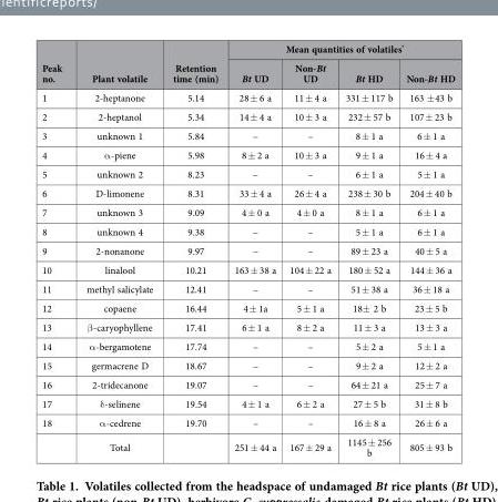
<table><thead><tr><td rowspan="2">Peak no.</td><td rowspan="2">Plant volatile</td><td rowspan="2">Retention time (min)</td><td colspan="4">Mean quantities of volatiles*</td></tr><tr><td>Bt UD</td><td>Non-Bt UD</td><td>Bt HD</td><td>Non-Bt HD</td></tr></thead><tbody><tr><td>1</td><td>2-heptanone</td><td>5.14</td><td>28 ± 6 a</td><td>11 ± 4 a</td><td>331 ± 117 b</td><td>163 ± 43 b</td></tr><tr><td>2</td><td>2-heptanol</td><td>5.34</td><td>14 ± 4 a</td><td>10 ± 3 a</td><td>232 ± 57 b</td><td>107 ± 23 b</td></tr><tr><td>3</td><td>unknown 1</td><td>5.84</td><td>–</td><td>–</td><td>8 ± 1 a</td><td>6 ± 1 a</td></tr><tr><td>4</td><td>α -piene</td><td>5.98</td><td>8 ± 2 a</td><td>10 ± 3 a</td><td>9 ± 1 a</td><td>16 ± 4 a</td></tr><tr><td>5</td><td>unknown 2</td><td>8.23</td><td>–</td><td>–</td><td>6 ± 1 a</td><td>5 ± 1 a</td></tr><tr><td>6</td><td>D-limonene</td><td>8.31</td><td>33 ± 4 a</td><td>26 ± 4 a</td><td>238 ± 30 b</td><td>204 ± 40 b</td></tr><tr><td>7</td><td>unknown 3</td><td>9.09</td><td>4 ± 0 a</td><td>4 ± 0 a</td><td>8 ± 1 a</td><td>6 ± 1 a</td></tr><tr><td>8</td><td>unknown 4</td><td>9.38</td><td>–</td><td>–</td><td>5 ± 1 a</td><td>6 ± 1 a</td></tr><tr><td>9</td><td>2-nonanone</td><td>9.97</td><td>–</td><td>–</td><td>89 ± 23 a</td><td>40 ± 5 a</td></tr><tr><td>10</td><td>linalool</td><td>10.21</td><td>163 ± 38 a</td><td>104 ± 22 a</td><td>180 ± 52 a</td><td>144 ± 36 a</td></tr><tr><td>11</td><td>methyl salicylate</td><td>12.41</td><td>–</td><td>–</td><td>51 ± 38 a</td><td>36 ± 18 a</td></tr><tr><td>12</td><td>copaene</td><td>16.44</td><td>4 ± 1a</td><td>5 ± 1 a</td><td>18± 2 b</td><td>23 ± 5 b</td></tr><tr><td>13</td><td>β -caryophyllene</td><td>17.41</td><td>6 ± 1 a</td><td>8 ± 2 a</td><td>11 ± 3 a</td><td>13 ± 3 a</td></tr><tr><td>14</td><td>α -bergamotene</td><td>17.74</td><td>–</td><td>–</td><td>5 ± 2 a</td><td>5 ± 1 a</td></tr><tr><td>15</td><td>germacrene D</td><td>18.67</td><td>–</td><td>–</td><td>9 ± 2 a</td><td>12 ± 2 a</td></tr><tr><td>16</td><td>2-tridecanone</td><td>19.07</td><td>–</td><td>–</td><td>64 ± 21 a</td><td>25 ± 7 a</td></tr><tr><td>17</td><td>δ -selinene</td><td>19.54</td><td>4 ± 1 a</td><td>6 ± 2 a</td><td>27 ± 5 b</td><td>31 ± 8 b</td></tr><tr><td rowspan="2">18</td><td>α -cedrene</td><td>19.70</td><td>–</td><td>–</td><td>16 ± 8 a</td><td>26 ± 6 a</td></tr><tr><td>Total</td><td></td><td>251 ± 44 a</td><td>167 ± 29 a</td><td>1145 ± 256 b</td><td>805 ± 93 b</td></tr></tbody></table>